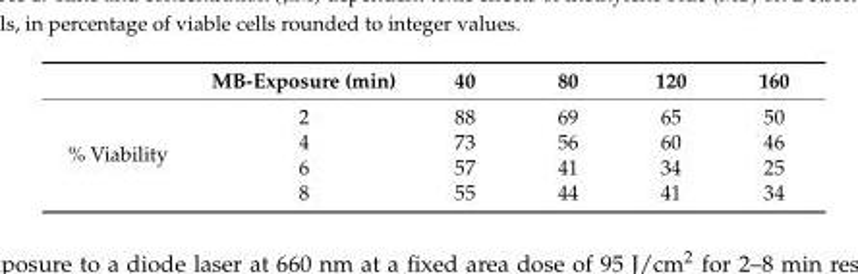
<table><thead><tr><td></td><td>MB-Exposure (min)</td><td>40</td><td>80</td><td>120</td><td>160</td></tr></thead><tbody><tr><td rowspan="4">% Viability</td><td>2</td><td>88</td><td>69</td><td>65</td><td>50</td></tr><tr><td>4</td><td>73</td><td>56</td><td>60</td><td>46</td></tr><tr><td>6</td><td>57</td><td>41</td><td>34</td><td>25</td></tr><tr><td>8</td><td>55</td><td>44</td><td>41</td><td>34</td></tr></tbody></table>